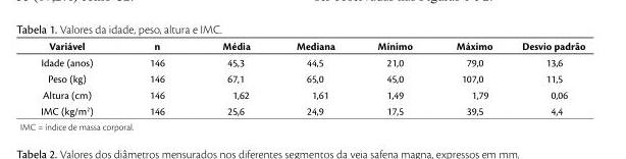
<table><thead><tr><td>Variável</td><td>n</td><td>Média</td><td>Mediana</td><td>Mínimo</td><td>Máximo</td><td>Desvio padrão</td></tr></thead><tbody><tr><td>Idade (anos)</td><td>146</td><td>45,3</td><td>44,5</td><td>21,0</td><td>79,0</td><td>13,6</td></tr><tr><td>Peso (kg)</td><td>146</td><td>67,1</td><td>65,0</td><td>45,0</td><td>107,0</td><td>11,5</td></tr><tr><td>Altura (cm)</td><td>146</td><td>1,62</td><td>1,61</td><td>1,49</td><td>1,79</td><td>0,06</td></tr><tr><td>IMC (kg/m<sup>2</sup>)</td><td>146</td><td>25,6</td><td>24,9</td><td>17,5</td><td>39,5</td><td>4,4</td></tr></tbody></table>